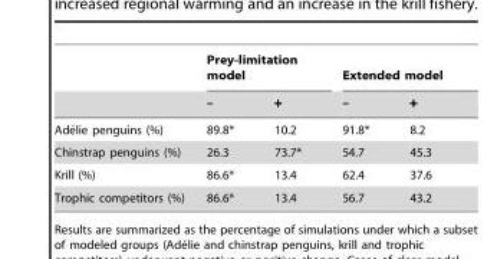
<table><thead><tr><td rowspan="2"></td><td colspan="2">Prey-limitation model</td><td colspan="2">Extended model</td></tr><tr><td>–</td><td>+</td><td>–</td><td>+</td></tr></thead><tbody><tr><td>Ade´lie penguins (%)</td><td>89.8*</td><td>10.2</td><td>91.8*</td><td>8.2</td></tr><tr><td>Chinstrap penguins (%)</td><td>26.3</td><td>73.7*</td><td>54.7</td><td>45.3</td></tr><tr><td>Krill (%)</td><td>86.6*</td><td>13.4</td><td>62.4</td><td>37.6</td></tr><tr><td>Trophic competitors (%)</td><td>86.6*</td><td>13.4</td><td>56.7</td><td>43.2</td></tr></tbody></table>